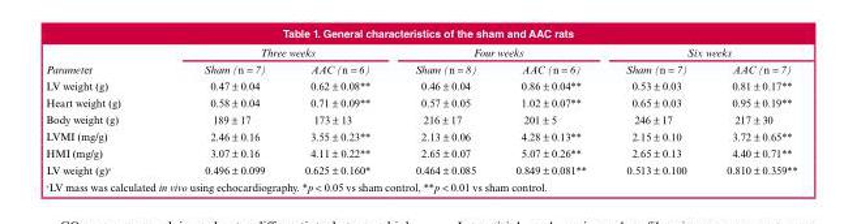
<table><thead><tr><td rowspan="2">Parameter</td><td colspan="2">Three weeks</td><td colspan="2">Four weeks</td><td colspan="2">Six weeks</td></tr><tr><td>Sham (n = 7)</td><td>AAC (n = 6)</td><td>Sham (n = 8)</td><td>AAC (n = 6)</td><td>Sham (n = 7)</td><td>AAC (n = 7)</td></tr></thead><tbody><tr><td>LV weight (g)</td><td>0.47 ± 0.04</td><td>0.62 ± 0.08**</td><td>0.46 ± 0.04</td><td>0.86 ± 0.04**</td><td>0.53 ± 0.03</td><td>0.81 ± 0.17**</td></tr><tr><td>Heart weight (g)</td><td>0.58 ± 0.04</td><td>0.71 ± 0.09**</td><td>0.57 ± 0.05</td><td>1.02 ± 0.07**</td><td>0.65 ± 0.03</td><td>0.95 ± 0.19**</td></tr><tr><td>Body weight (g)</td><td>189 ± 17</td><td>173 ± 13</td><td>216 ± 17</td><td>201 ± 5</td><td>246 ± 17</td><td>217 ± 30</td></tr><tr><td>LVMI (mg/g)</td><td>2.46 ± 0.16</td><td>3.55 ± 0.23**</td><td>2.13 ± 0.06</td><td>4.28 ± 0.13**</td><td>2.15 ± 0.10</td><td>3.72 ± 0.65**</td></tr><tr><td>HMI (mg/g)</td><td>3.07 ± 0.16</td><td>4.11 ± 0.22**</td><td>2.65 ± 0.07</td><td>5.07 ± 0.26**</td><td>2.65 ± 0.13</td><td>4.40 ± 0.71**</td></tr><tr><td>LV weight (g)<sup>a</sup></td><td>0.496 ± 0.099</td><td>0.625 ± 0.160*</td><td>0.464 ± 0.085</td><td>0.849 ± 0.081**</td><td>0.513 ± 0.100</td><td>0.810 ± 0.359**</td></tr></tbody></table>